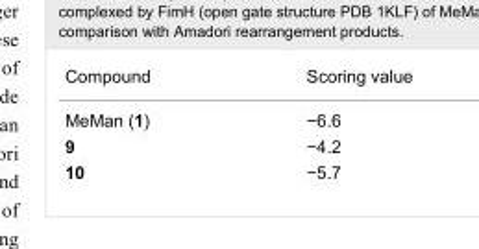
<table><tbody><tr><td>Compound</td><td>Scoring value</td></tr><tr><td>MeMan (1)</td><td>−6.6</td></tr><tr><td>9</td><td>−4.2</td></tr><tr><td>10</td><td>−5.7</td></tr></tbody></table>